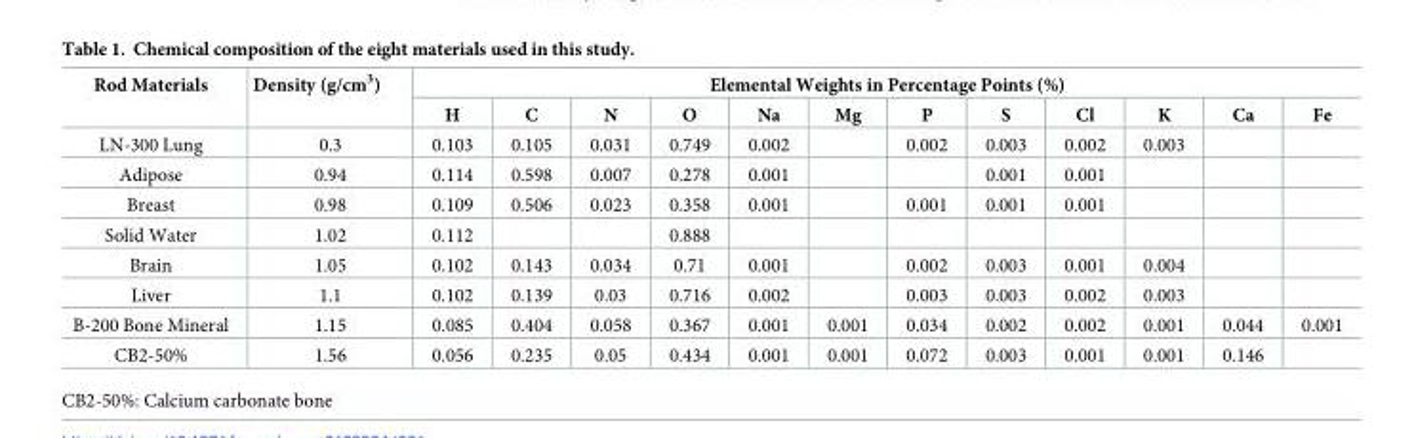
<table><thead><tr><td rowspan="2">Rod Materials</td><td rowspan="2">Density (g/cm<sup>3</sup>)</td><td colspan="12">Elemental Weights in Percentage Points (%)</td></tr><tr><td>H</td><td>C</td><td>N</td><td>O</td><td>Na</td><td>Mg</td><td>P</td><td>S</td><td>Cl</td><td>K</td><td>Ca</td><td>Fe</td></tr></thead><tbody><tr><td>LN-300 Lung</td><td>0.3</td><td>0.103</td><td>0.105</td><td>0.031</td><td>0.749</td><td>0.002</td><td></td><td>0.002</td><td>0.003</td><td>0.002</td><td>0.003</td><td></td><td></td></tr><tr><td>Adipose</td><td>0.94</td><td>0.114</td><td>0.598</td><td>0.007</td><td>0.278</td><td>0.001</td><td></td><td></td><td>0.001</td><td>0.001</td><td></td><td></td><td></td></tr><tr><td>Breast</td><td>0.98</td><td>0.109</td><td>0.506</td><td>0.023</td><td>0.358</td><td>0.001</td><td></td><td>0.001</td><td>0.001</td><td>0.001</td><td></td><td></td><td></td></tr><tr><td>Solid Water</td><td>1.02</td><td>0.112</td><td></td><td></td><td>0.888</td><td></td><td></td><td></td><td></td><td></td><td></td><td></td><td></td></tr><tr><td>Brain</td><td>1.05</td><td>0.102</td><td>0.143</td><td>0.034</td><td>0.71</td><td>0.001</td><td></td><td>0.002</td><td>0.003</td><td>0.001</td><td>0.004</td><td></td><td></td></tr><tr><td>Liver</td><td>1.1</td><td>0.102</td><td>0.139</td><td>0.03</td><td>0.716</td><td>0.002</td><td></td><td>0.003</td><td>0.003</td><td>0.002</td><td>0.003</td><td></td><td></td></tr><tr><td>B-200 Bone Mineral</td><td>1.15</td><td>0.085</td><td>0.404</td><td>0.058</td><td>0.367</td><td>0.001</td><td>0.001</td><td>0.034</td><td>0.002</td><td>0.002</td><td>0.001</td><td>0.044</td><td>0.001</td></tr><tr><td>CB2-50%</td><td>1.56</td><td>0.056</td><td>0.235</td><td>0.05</td><td>0.434</td><td>0.001</td><td>0.001</td><td>0.072</td><td>0.003</td><td>0.001</td><td>0.001</td><td>0.146</td><td></td></tr></tbody></table>